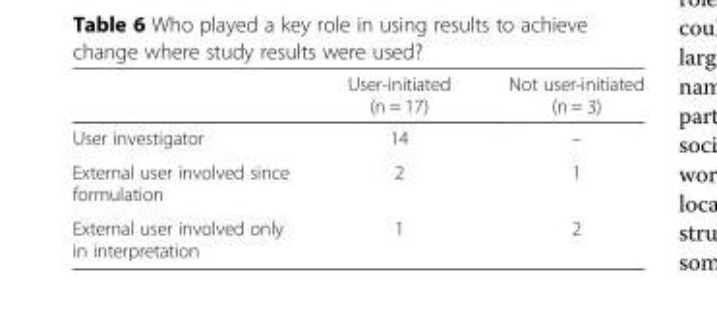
<table><thead><tr><td></td><td>User-initiated (n = 17)</td><td>Not user-initiated (n = 3)</td></tr></thead><tbody><tr><td>User investigator</td><td>14</td><td>–</td></tr><tr><td>External user involved since formulation</td><td>2</td><td>1</td></tr><tr><td>External user involved only in interpretation</td><td>1</td><td>2</td></tr></tbody></table>